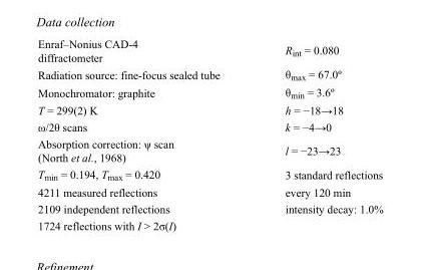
<table><tbody><tr><td>Enraf–Nonius CAD-4 diffractometer</td><td>R<sub>int</sub> = 0.080</td></tr><tr><td>Radiation source: fine-focus sealed tube</td><td>θ<sub>max</sub> = 67.0º</td></tr><tr><td>Monochromator: graphite</td><td>θ<sub>min</sub> = 3.6º</td></tr><tr><td>T = 299(2) K</td><td>h = −18→18</td></tr><tr><td>ω/2θ scans</td><td>k = −4→0</td></tr><tr><td>Absorption correction: ψ scan (North et al., 1968)</td><td>l = −23→23</td></tr><tr><td>T<sub>min</sub> = 0.194, T<sub>max</sub> = 0.420</td><td>3 standard reflections</td></tr><tr><td>4211 measured reflections</td><td>every 120 min</td></tr><tr><td>2109 independent reflections</td><td>intensity decay: 1.0%</td></tr><tr><td>1724 reflections with I &gt; 2σ(I)</td><td></td></tr></tbody></table>